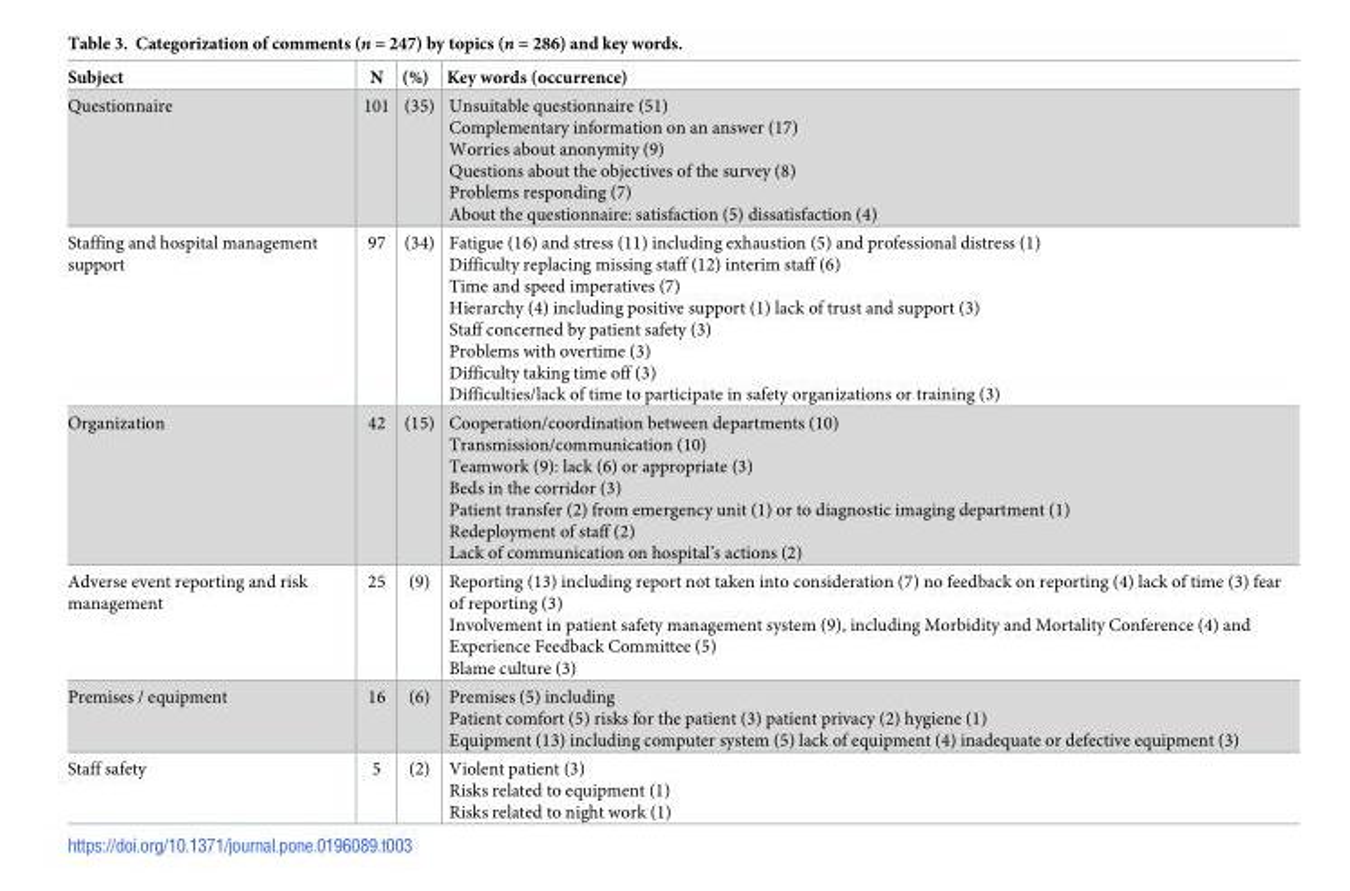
<table><thead><tr><td>Subject</td><td>N</td><td>(%)</td><td>Key words (occurrence)</td></tr></thead><tbody><tr><td>Questionnaire</td><td>101</td><td>(35)</td><td>Unsuitable questionnaire (51) Complementary information on an answer (17) Worries about anonymity (9) Questions about the objectives of the survey (8) Problems responding (7) About the questionnaire: satisfaction (5) dissatisfaction (4)</td></tr><tr><td>Staffing and hospital management support</td><td>97</td><td>(34)</td><td>Fatigue (16) and stress (11) including exhaustion (5) and professional distress (1) Difficulty replacing missing staff (12) interim staff (6) Time and speed imperatives (7) Hierarchy (4) including positive support (1) lack of trust and support (3) Staff concerned by patient safety (3) Problems with overtime (3) Difficulty taking time off (3) Difficulties/lack of time to participate in safety organizations or training (3)</td></tr><tr><td>Organization</td><td>42</td><td>(15)</td><td>Cooperation/coordination between departments (10) Transmission/communication (10) Teamwork (9): lack (6) or appropriate (3) Beds in the corridor (3) Patient transfer (2) from emergency unit (1) or to diagnostic imaging department (1) Redeployment of staff (2) Lack of communication on hospital’s actions (2)</td></tr><tr><td>Adverse event reporting and risk management</td><td>25</td><td>(9)</td><td>Reporting (13) including report not taken into consideration (7) no feedback on reporting (4) lack of time (3) fear of reporting (3) Involvement in patient safety management system (9), including Morbidity and Mortality Conference (4) and Experience Feedback Committee (5) Blame culture (3)</td></tr><tr><td>Premises / equipment</td><td>16</td><td>(6)</td><td>Premises (5) including Patient comfort (5) risks for the patient (3) patient privacy (2) hygiene (1) Equipment (13) including computer system (5) lack of equipment (4) inadequate or defective equipment (3)</td></tr><tr><td>Staff safety</td><td>5</td><td>(2)</td><td>Violent patient (3) Risks related to equipment (1) Risks related to night work (1)</td></tr></tbody></table>